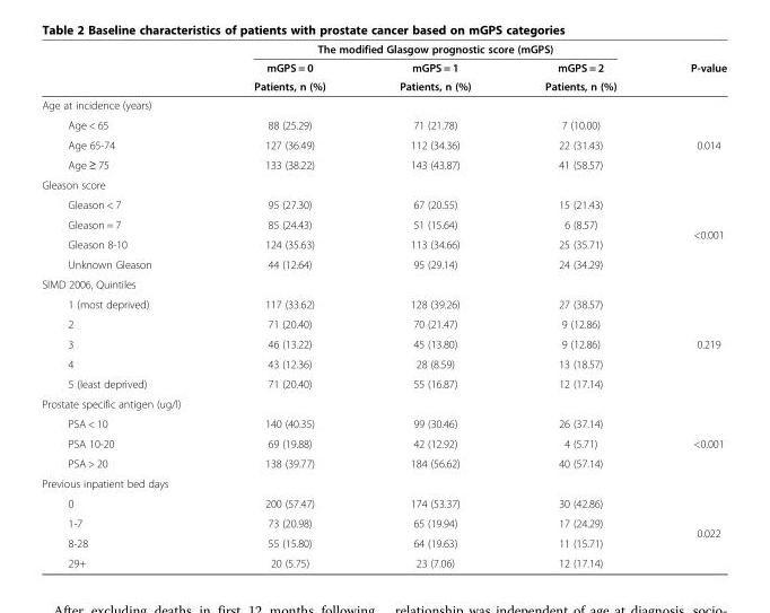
<table><thead><tr><td rowspan="3"></td><td colspan="3">The modified Glasgow prognostic score (mGPS)</td><td rowspan="3">P-value</td></tr><tr><td rowspan="2">mGPS = 0 Patients, n (%)</td><td rowspan="2">mGPS = 1 Patients, n (%)</td><td rowspan="2">mGPS = 2 Patients, n (%)</td></tr><tr></tr></thead><tbody><tr><td colspan="5">Age at incidence (years)</td></tr><tr><td>Age &lt; 65</td><td>88 (25.29)</td><td>71 (21.78)</td><td>7 (10.00)</td><td rowspan="3">0.014</td></tr><tr><td>Age 65-74</td><td>127 (36.49)</td><td>112 (34.36)</td><td>22 (31.43)</td></tr><tr><td>Age ≥ 75</td><td>133 (38.22)</td><td>143 (43.87)</td><td>41 (58.57)</td></tr><tr><td colspan="5">Gleason score</td></tr><tr><td>Gleason &lt; 7</td><td>95 (27.30)</td><td>67 (20.55)</td><td>15 (21.43)</td><td rowspan="4">&lt;0.001</td></tr><tr><td>Gleason = 7</td><td>85 (24.43)</td><td>51 (15.64)</td><td>6 (8.57)</td></tr><tr><td>Gleason 8-10</td><td>124 (35.63)</td><td>113 (34.66)</td><td>25 (35.71)</td></tr><tr><td>Unknown Gleason</td><td>44 (12.64)</td><td>95 (29.14)</td><td>24 (34.29)</td></tr><tr><td colspan="5">SIMD 2006, Quintiles</td></tr><tr><td>1 (most deprived)</td><td>117 (33.62)</td><td>128 (39.26)</td><td>27 (38.57)</td><td rowspan="5">0.219</td></tr><tr><td>2</td><td>71 (20.40)</td><td>70 (21.47)</td><td>9 (12.86)</td></tr><tr><td>3</td><td>46 (13.22)</td><td>45 (13.80)</td><td>9 (12.86)</td></tr><tr><td>4</td><td>43 (12.36)</td><td>28 (8.59)</td><td>13 (18.57)</td></tr><tr><td>5 (least deprived)</td><td>71 (20.40)</td><td>55 (16.87)</td><td>12 (17.14)</td></tr><tr><td colspan="5">Prostate specific antigen (ug/l)</td></tr><tr><td>PSA &lt; 10</td><td>140 (40.35)</td><td>99 (30.46)</td><td>26 (37.14)</td><td rowspan="3">&lt;0.001</td></tr><tr><td>PSA 10-20</td><td>69 (19.88)</td><td>42 (12.92)</td><td>4 (5.71)</td></tr><tr><td>PSA &gt; 20</td><td>138 (39.77)</td><td>184 (56.62)</td><td>40 (57.14)</td></tr><tr><td colspan="5">Previous inpatient bed days</td></tr><tr><td>0</td><td>200 (57.47)</td><td>174 (53.37)</td><td>30 (42.86)</td><td rowspan="3">0.022</td></tr><tr><td>1-7</td><td>73 (20.98)</td><td>65 (19.94)</td><td>17 (24.29)</td></tr><tr><td>8-28</td><td>55 (15.80)</td><td>64 (19.63)</td><td>11 (15.71)</td></tr><tr><td>29+</td><td>20 (5.75)</td><td>23 (7.06)</td><td>12 (17.14)</td><td></td></tr></tbody></table>